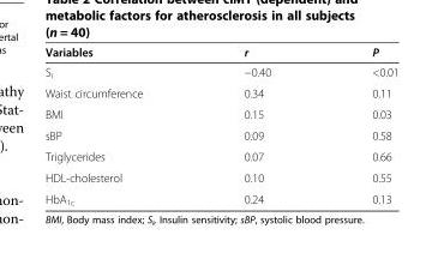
<table><thead><tr><td>Variables</td><td>r</td><td>P</td></tr></thead><tbody><tr><td>S<sub>i</sub></td><td>−0.40</td><td>&lt;0.01</td></tr><tr><td>Waist circumference</td><td>0.34</td><td>0.11</td></tr><tr><td>BMI</td><td>0.15</td><td>0.03</td></tr><tr><td>sBP</td><td>0.09</td><td>0.58</td></tr><tr><td>Triglycerides</td><td>0.07</td><td>0.66</td></tr><tr><td>HDL-cholesterol</td><td>0.10</td><td>0.55</td></tr><tr><td>HbA<sub>1c</sub></td><td>0.24</td><td>0.13</td></tr></tbody></table>